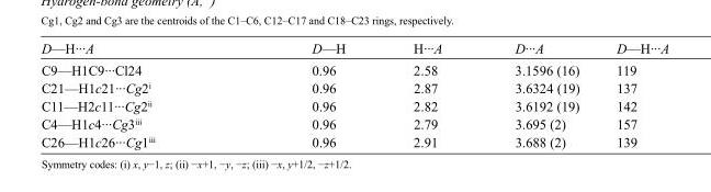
<table><tbody><tr><td>D—H···A</td><td>D—H</td><td>H···A</td><td>D···A</td><td>D—H···A</td></tr><tr><td>C9—H1C9···Cl24</td><td>0.96</td><td>2.58</td><td>3.1596 (16)</td><td>119</td></tr><tr><td>C21—H1c21···Cg2<sup>i</sup></td><td>0.96</td><td>2.87</td><td>3.6324 (19)</td><td>137</td></tr><tr><td>C11—H2c11···Cg2<sup>ii</sup></td><td>0.96</td><td>2.82</td><td>3.6192 (19)</td><td>142</td></tr><tr><td>C4—H1c4···Cg3<sup>iii</sup></td><td>0.96</td><td>2.79</td><td>3.695 (2)</td><td>157</td></tr><tr><td>C26—H1c26···Cg1<sup>iii</sup></td><td>0.96</td><td>2.91</td><td>3.688 (2)</td><td>139</td></tr></tbody></table>